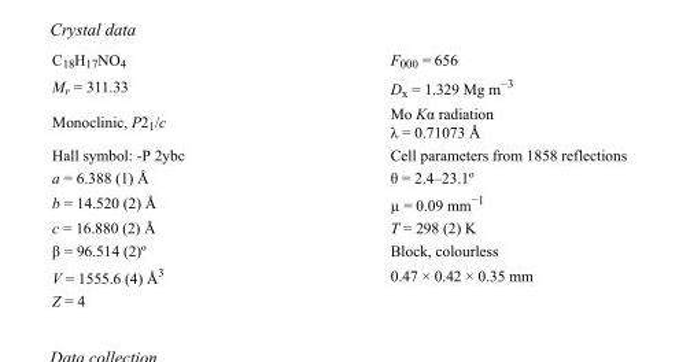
<table><tbody><tr><td>C<sub>18</sub>H<sub>17</sub>NO<sub>4</sub></td><td>F<sub>000</sub> = 656</td></tr><tr><td>M<sub>r</sub> = 311.33</td><td>D<sub>x</sub> = 1.329 Mg m<sup>−3</sup></td></tr><tr><td>Monoclinic, P2<sub>1</sub>/c</td><td>Mo Kα radiation λ = 0.71073 Å</td></tr><tr><td>Hall symbol: -P 2ybc</td><td>Cell parameters from 1858 reflections</td></tr><tr><td>a = 6.388 (1) Å</td><td>θ = 2.4–23.1º</td></tr><tr><td>b = 14.520 (2) Å</td><td>µ = 0.09 mm<sup>−1</sup></td></tr><tr><td>c = 16.880 (2) Å</td><td>T = 298 (2) K</td></tr><tr><td>β = 96.514 (2)º</td><td>Block, colourless</td></tr><tr><td>V = 1555.6 (4) Å<sup>3</sup></td><td>0.47 × 0.42 × 0.35 mm</td></tr><tr><td>Z = 4</td><td></td></tr></tbody></table>